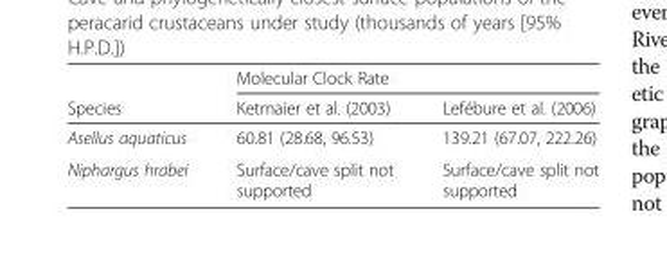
<table><thead><tr><td rowspan="2">Species</td><td colspan="2">Molecular Clock Rate</td></tr><tr><td>Ketmaier et al. (2003)</td><td>Lefébure et al. (2006)</td></tr></thead><tbody><tr><td>Asellus aquaticus</td><td>60.81 (28.68, 96.53)</td><td>139.21 (67.07, 222.26)</td></tr><tr><td>Niphargus hrabei</td><td>Surface/cave split not supported</td><td>Surface/cave split not supported</td></tr></tbody></table>